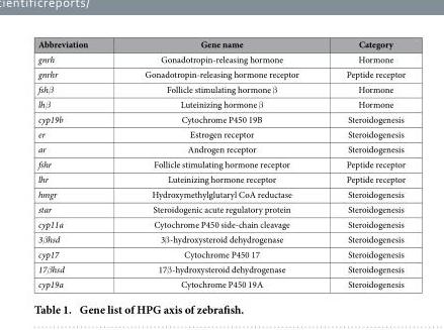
<table><thead><tr><td>Abbreviation</td><td>Gene name</td><td>Category</td></tr></thead><tbody><tr><td>gnrh</td><td>Gonadotropin-releasing hormone</td><td>Hormone</td></tr><tr><td>gnrhr</td><td>Gonadotropin-releasing hormone receptor</td><td>Peptide receptor</td></tr><tr><td>fshβ</td><td>Follicle stimulating hormone β</td><td>Hormone</td></tr><tr><td>lhβ</td><td>Luteinizing hormone β</td><td>Hormone</td></tr><tr><td>cyp19b</td><td>Cytochrome P450 19B</td><td>Steroidogenesis</td></tr><tr><td>er</td><td>Estrogen receptor</td><td>Steroidogenesis</td></tr><tr><td>ar</td><td>Androgen receptor</td><td>Steroidogenesis</td></tr><tr><td>fshr</td><td>Follicle stimulating hormone receptor</td><td>Peptide receptor</td></tr><tr><td>lhr</td><td>Luteinizing hormone receptor</td><td>Peptide receptor</td></tr><tr><td>hmgr</td><td>Hydroxymethylglutaryl CoA reductase</td><td>Steroidogenesis</td></tr><tr><td>star</td><td>Steroidogenic acute regulatory protein</td><td>Steroidogenesis</td></tr><tr><td>cyp11a</td><td>Cytochrome P450 side-chain cleavage</td><td>Steroidogenesis</td></tr><tr><td>3βhsd</td><td>3β -hydroxysteroid dehydrogenase</td><td>Steroidogenesis</td></tr><tr><td>cyp17</td><td>Cytochrome P450 17</td><td>Steroidogenesis</td></tr><tr><td>17βhsd</td><td>17β -hydroxysteroid dehydrogenase</td><td>Steroidogenesis</td></tr><tr><td>cyp19a</td><td>Cytochrome P450 19A</td><td>Steroidogenesis</td></tr></tbody></table>